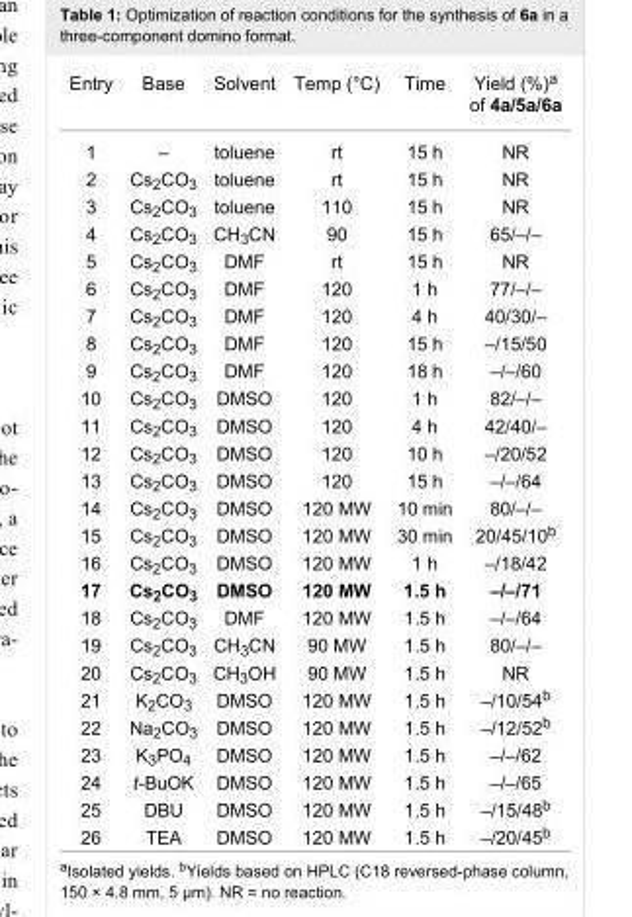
<table><tbody><tr><td>Entry</td><td>Base</td><td>Solvent</td><td>Temp (°C)</td><td>Time</td><td>Yield (%)<sup>a</sup> of 4a/5a/6a</td></tr><tr><td>1</td><td>–</td><td>toluene</td><td>rt</td><td>15 h</td><td>NR</td></tr><tr><td>2</td><td>Cs<sub>2</sub>CO<sub>3</sub></td><td>toluene</td><td>rt</td><td>15 h</td><td>NR</td></tr><tr><td>3</td><td>Cs<sub>2</sub>CO<sub>3</sub></td><td>toluene</td><td>110</td><td>15 h</td><td>NR</td></tr><tr><td>4</td><td>Cs<sub>2</sub>CO<sub>3</sub></td><td>CH<sub>3</sub>CN</td><td>90</td><td>15 h</td><td>65/–/–</td></tr><tr><td>5</td><td>Cs<sub>2</sub>CO<sub>3</sub></td><td>DMF</td><td>rt</td><td>15 h</td><td>NR</td></tr><tr><td>6</td><td>Cs<sub>2</sub>CO<sub>3</sub></td><td>DMF</td><td>120</td><td>1 h</td><td>77/–/–</td></tr><tr><td>7</td><td>Cs<sub>2</sub>CO<sub>3</sub></td><td>DMF</td><td>120</td><td>4 h</td><td>40/30/–</td></tr><tr><td>8</td><td>Cs<sub>2</sub>CO<sub>3</sub></td><td>DMF</td><td>120</td><td>15 h</td><td>–/15/50</td></tr><tr><td>9</td><td>Cs<sub>2</sub>CO<sub>3</sub></td><td>DMF</td><td>120</td><td>18 h</td><td>–/–/60</td></tr><tr><td>10</td><td>Cs<sub>2</sub>CO<sub>3</sub></td><td>DMSO</td><td>120</td><td>1 h</td><td>82/–/–</td></tr><tr><td>11</td><td>Cs<sub>2</sub>CO<sub>3</sub></td><td>DMSO</td><td>120</td><td>4 h</td><td>42/40/–</td></tr><tr><td>12</td><td>Cs<sub>2</sub>CO<sub>3</sub></td><td>DMSO</td><td>120</td><td>10 h</td><td>–/20/52</td></tr><tr><td>13</td><td>Cs<sub>2</sub>CO<sub>3</sub></td><td>DMSO</td><td>120</td><td>15 h</td><td>–/–/64</td></tr><tr><td>14</td><td>Cs<sub>2</sub>CO<sub>3</sub></td><td>DMSO</td><td>120 MW</td><td>10 min</td><td>80/–/–</td></tr><tr><td>15</td><td>Cs<sub>2</sub>CO<sub>3</sub></td><td>DMSO</td><td>120 MW</td><td>30 min</td><td>20/45/10<sup>b</sup></td></tr><tr><td>16</td><td>Cs<sub>2</sub>CO<sub>3</sub></td><td>DMSO</td><td>120 MW</td><td>1 h</td><td>–/18/42</td></tr><tr><td>17</td><td>Cs<sub>2</sub>CO<sub>3</sub></td><td>DMSO</td><td>120 MW</td><td>1.5 h</td><td>–/–/71</td></tr><tr><td>18</td><td>Cs<sub>2</sub>CO<sub>3</sub></td><td>DMF</td><td>120 MW</td><td>1.5 h</td><td>–/–/64</td></tr><tr><td>19</td><td>Cs<sub>2</sub>CO<sub>3</sub></td><td>CH<sub>3</sub>CN</td><td>90 MW</td><td>1.5 h</td><td>80/–/–</td></tr><tr><td>20</td><td>Cs<sub>2</sub>CO<sub>3</sub></td><td>CH<sub>3</sub>OH</td><td>90 MW</td><td>1.5 h</td><td>NR</td></tr><tr><td>21</td><td>K<sub>2</sub>CO<sub>3</sub></td><td>DMSO</td><td>120 MW</td><td>1.5 h</td><td>–/10/54<sup>b</sup></td></tr><tr><td>22</td><td>Na<sub>2</sub>CO<sub>3</sub></td><td>DMSO</td><td>120 MW</td><td>1.5 h</td><td>–/12/52<sup>b</sup></td></tr><tr><td>23</td><td>K<sub>3</sub>PO<sub>4</sub></td><td>DMSO</td><td>120 MW</td><td>1.5 h</td><td>–/–/62</td></tr><tr><td>24</td><td>t-BuOK</td><td>DMSO</td><td>120 MW</td><td>1.5 h</td><td>–/–/65</td></tr><tr><td>25</td><td>DBU</td><td>DMSO</td><td>120 MW</td><td>1.5 h</td><td>–/15/48<sup>b</sup></td></tr><tr><td>26</td><td>TEA</td><td>DMSO</td><td>120 MW</td><td>1.5 h</td><td>–/20/45<sup>b</sup></td></tr></tbody></table>